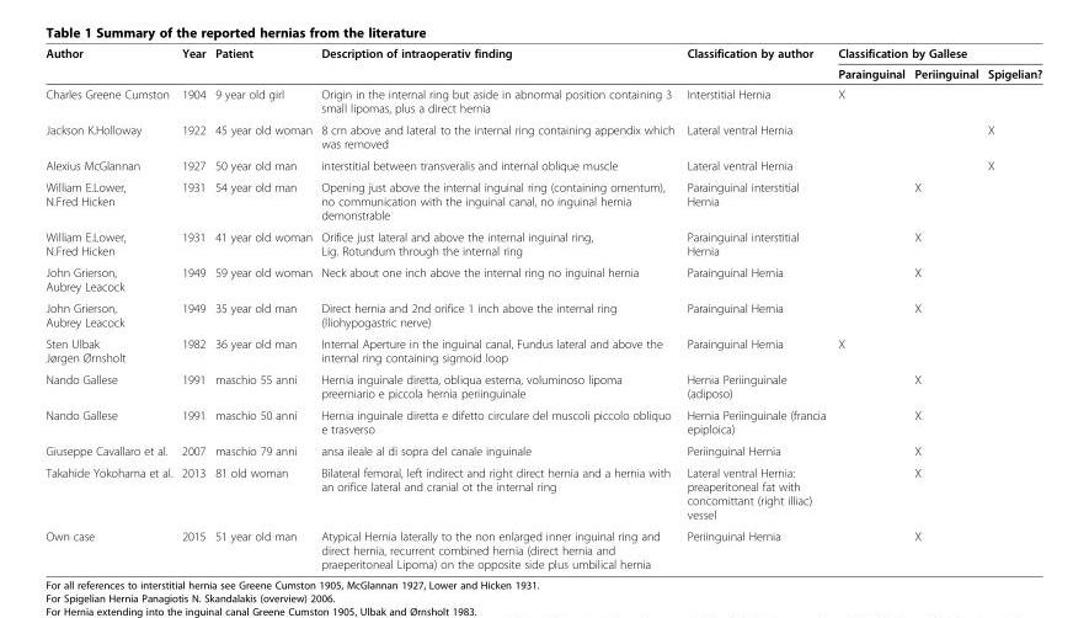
<table><thead><tr><td rowspan="2">Author</td><td rowspan="2">Year</td><td rowspan="2">Patient</td><td rowspan="2">Description of intraoperativ finding</td><td rowspan="2">Classification by author</td><td colspan="3">Classification by Gallese</td></tr><tr><td>Parainguinal</td><td>Periinguinal</td><td>Spigelian?</td></tr></thead><tbody><tr><td>Charles Greene Cumston</td><td>1904</td><td>9 year old girl</td><td>Origin in the internal ring but aside in abnormal position containing 3 small lipomas, plus a direct hernia</td><td>Interstitial Hernia</td><td>X</td><td></td><td></td></tr><tr><td>Jackson K.Holloway</td><td>1922</td><td>45 year old woman</td><td>8 cm above and lateral to the internal ring containing appendix which was removed</td><td>Lateral ventral Hernia</td><td></td><td></td><td>X</td></tr><tr><td>Alexius McGlannan</td><td>1927</td><td>50 year old man</td><td>interstitial between transveralis and internal oblique muscle</td><td>Lateral ventral Hernia</td><td></td><td></td><td>X</td></tr><tr><td>William E.Lower, N.Fred Hicken</td><td>1931</td><td>54 year old man</td><td>Opening just above the internal inguinal ring (containing omentum), no communication with the inguinal canal, no inguinal hernia demonstrable</td><td>Parainguinal interstitial Hernia</td><td></td><td>X</td><td></td></tr><tr><td>William E.Lower, N.Fred Hicken</td><td>1931</td><td>41 year old woman</td><td>Orifice just lateral and above the internal inguinal ring, Lig. Rotundum through the internal ring</td><td>Parainguinal interstitial Hernia</td><td></td><td>X</td><td></td></tr><tr><td>John Grierson, Aubrey Leacock</td><td>1949</td><td>59 year old woman</td><td>Neck about one inch above the internal ring no inguinal hernia</td><td>Parainguinal Hernia</td><td></td><td>X</td><td></td></tr><tr><td>John Grierson, Aubrey Leacock</td><td>1949</td><td>35 year old man</td><td>Direct hernia and 2nd orifice 1 inch above the internal ring (lliohypogastric nerve)</td><td>Parainguinal Hernia</td><td></td><td>X</td><td></td></tr><tr><td>Sten Ulbak Jørgen Ørnsholt</td><td>1982</td><td>36 year old man</td><td>Internal Aperture in the inguinal canal, Fundus lateral and above the internal ring containing sigmoid loop</td><td>Parainguinal Hernia</td><td>X</td><td></td><td></td></tr><tr><td>Nando Gallese</td><td>1991</td><td>maschio 55 anni</td><td>Hernia inguinale diretta, obliqua esterna, voluminoso lipoma preerniario e piccola hernia periinguinale</td><td>Hernia Periinguinale (adiposo)</td><td></td><td>X</td><td></td></tr><tr><td>Nando Gallese</td><td>1991</td><td>maschio 50 anni</td><td>Hernia inguinale diretta e difetto circulare del muscoli piccolo obliquo e trasverso</td><td>Hernia Periinguinale (francia epiploica)</td><td></td><td>X</td><td></td></tr><tr><td>Giuseppe Cavallaro et al.</td><td>2007</td><td>maschio 79 anni</td><td>ansa ileale al di sopra del canale inguinale</td><td>Periinguinal Hernia</td><td></td><td>X</td><td></td></tr><tr><td>Takahide Yokohama et al.</td><td>2013</td><td>81 old woman</td><td>Bilateral femoral, left indirect and right direct hernia and a hernia with an orifice lateral and cranial ot the internal ring</td><td>Lateral ventral Hernia: preaperitoneal fat with concomittant (right illiac) vessel</td><td></td><td>X</td><td></td></tr><tr><td>Own case</td><td>2015</td><td>51 year old man</td><td>Atypical Hernia laterally to the non enlarged inner inguinal ring and direct hernia, recurrent combined hernia (direct hernia and praeperitoneal Lipoma) on the opposite side plus umbilical hernia</td><td>Periinguinal Hernia</td><td></td><td>X</td><td></td></tr></tbody></table>